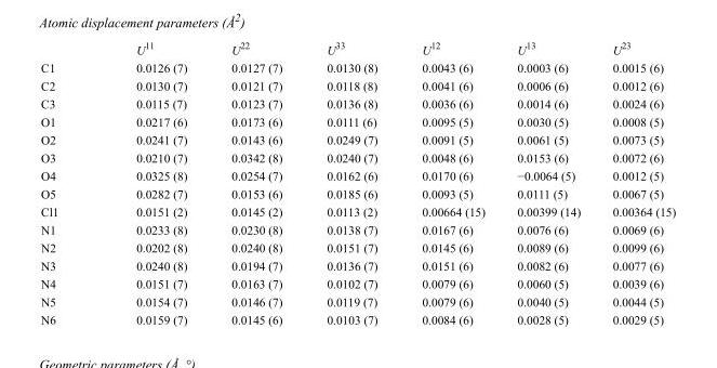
<table><thead><tr><td></td><td>U<sup>11</sup></td><td>U<sup>22</sup></td><td>U<sup>33</sup></td><td>U<sup>12</sup></td><td>U<sup>13</sup></td><td>U<sup>23</sup></td></tr></thead><tbody><tr><td>C1</td><td>0.0126 (7)</td><td>0.0127 (7)</td><td>0.0130 (8)</td><td>0.0043 (6)</td><td>0.0003 (6)</td><td>0.0015 (6)</td></tr><tr><td>C2</td><td>0.0130 (7)</td><td>0.0121 (7)</td><td>0.0118 (8)</td><td>0.0041 (6)</td><td>0.0006 (6)</td><td>0.0012 (6)</td></tr><tr><td>C3</td><td>0.0115 (7)</td><td>0.0123 (7)</td><td>0.0136 (8)</td><td>0.0036 (6)</td><td>0.0014 (6)</td><td>0.0024 (6)</td></tr><tr><td>O1</td><td>0.0217 (6)</td><td>0.0173 (6)</td><td>0.0111 (6)</td><td>0.0095 (5)</td><td>0.0030 (5)</td><td>0.0008 (5)</td></tr><tr><td>O2</td><td>0.0241 (7)</td><td>0.0143 (6)</td><td>0.0249 (7)</td><td>0.0091 (5)</td><td>0.0061 (5)</td><td>0.0073 (5)</td></tr><tr><td>O3</td><td>0.0210 (7)</td><td>0.0342 (8)</td><td>0.0240 (7)</td><td>0.0048 (6)</td><td>0.0153 (6)</td><td>0.0072 (6)</td></tr><tr><td>O4</td><td>0.0325 (8)</td><td>0.0254 (7)</td><td>0.0162 (6)</td><td>0.0170 (6)</td><td>−0.0064 (5)</td><td>0.0012 (5)</td></tr><tr><td>O5</td><td>0.0282 (7)</td><td>0.0153 (6)</td><td>0.0185 (6)</td><td>0.0093 (5)</td><td>0.0111 (5)</td><td>0.0067 (5)</td></tr><tr><td>Cl1</td><td>0.0151 (2)</td><td>0.0145 (2)</td><td>0.0113 (2)</td><td>0.00664 (15)</td><td>0.00399 (14)</td><td>0.00364 (15)</td></tr><tr><td>N1</td><td>0.0233 (8)</td><td>0.0230 (8)</td><td>0.0138 (7)</td><td>0.0167 (6)</td><td>0.0076 (6)</td><td>0.0069 (6)</td></tr><tr><td>N2</td><td>0.0202 (8)</td><td>0.0240 (8)</td><td>0.0151 (7)</td><td>0.0145 (6)</td><td>0.0089 (6)</td><td>0.0099 (6)</td></tr><tr><td>N3</td><td>0.0240 (8)</td><td>0.0194 (7)</td><td>0.0136 (7)</td><td>0.0151 (6)</td><td>0.0082 (6)</td><td>0.0077 (6)</td></tr><tr><td>N4</td><td>0.0151 (7)</td><td>0.0163 (7)</td><td>0.0102 (7)</td><td>0.0079 (6)</td><td>0.0060 (5)</td><td>0.0039 (6)</td></tr><tr><td>N5</td><td>0.0154 (7)</td><td>0.0146 (7)</td><td>0.0119 (7)</td><td>0.0079 (6)</td><td>0.0040 (5)</td><td>0.0044 (5)</td></tr><tr><td>N6</td><td>0.0159 (7)</td><td>0.0145 (6)</td><td>0.0103 (7)</td><td>0.0084 (6)</td><td>0.0028 (5)</td><td>0.0029 (5)</td></tr></tbody></table>